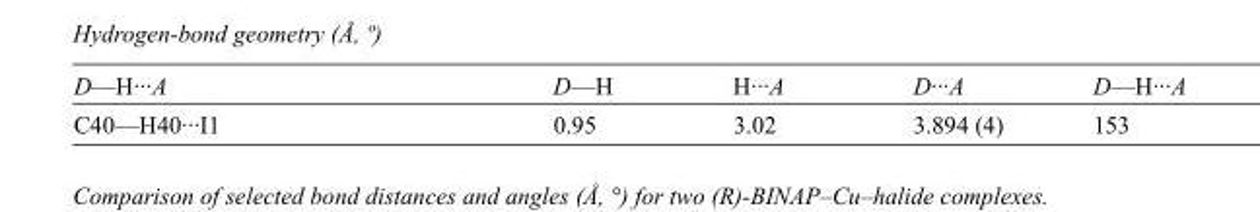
<table><tbody><tr><td>D—H···A</td><td>D—H</td><td>H···A</td><td>D···A</td><td>D—H···A</td></tr><tr><td>C40—H40···I1</td><td>0.95</td><td>3.02</td><td>3.894 (4)</td><td>153</td></tr></tbody></table>